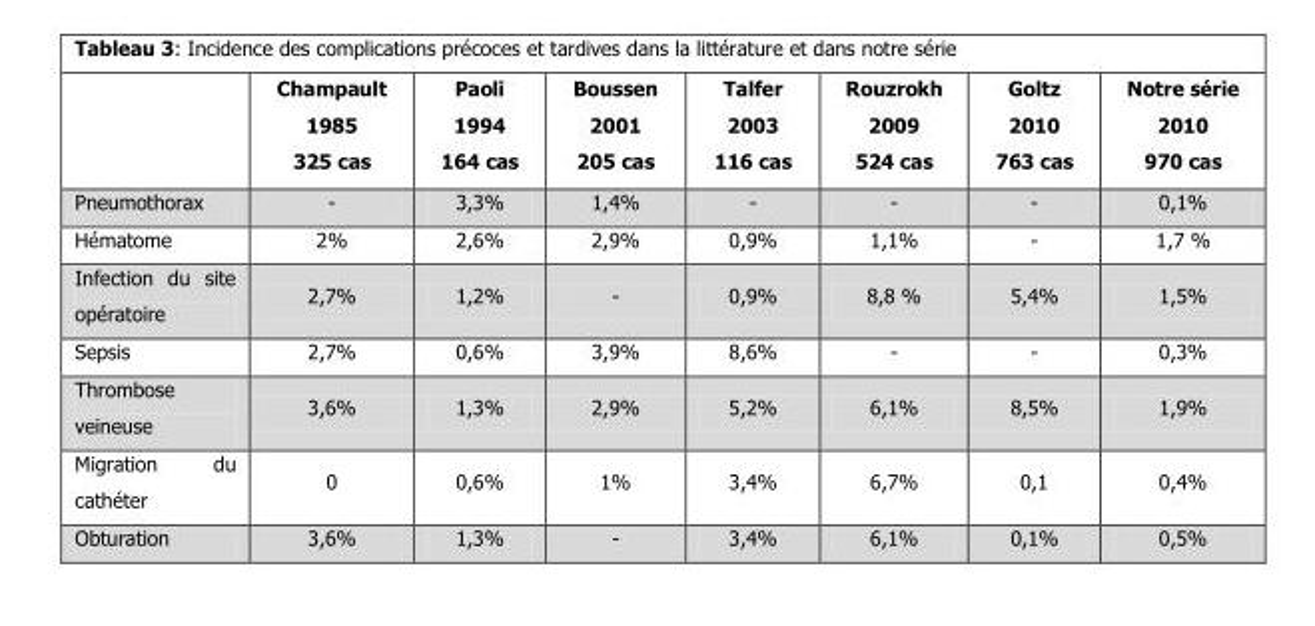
<table><thead><tr><td></td><td>Champault 1985 325 cas</td><td>Paoli 1994 164 cas</td><td>Boussen 2001 205 cas</td><td>Talfer 2003 116 cas</td><td>Rouzrokh 2009 524 cas</td><td>Goltz 2010 763 cas</td><td>Notre série 2010 970 cas</td></tr></thead><tbody><tr><td>Pneumothorax</td><td>-</td><td>3,3%</td><td>1,4%</td><td>-</td><td>-</td><td>-</td><td>0,1%</td></tr><tr><td>Hématome</td><td>2%</td><td>2,6%</td><td>2,9%</td><td>0,9%</td><td>1,1%</td><td>-</td><td>1,7 %</td></tr><tr><td>Infection du site opératoire</td><td>2,7%</td><td>1,2%</td><td>-</td><td>0,9%</td><td>8,8 %</td><td>5,4%</td><td>1,5%</td></tr><tr><td>Sepsis</td><td>2,7%</td><td>0,6%</td><td>3,9%</td><td>8,6%</td><td>-</td><td>-</td><td>0,3%</td></tr><tr><td>Thrombose veineuse</td><td>3,6%</td><td>1,3%</td><td>2,9%</td><td>5,2%</td><td>6,1%</td><td>8,5%</td><td>1,9%</td></tr><tr><td>Migration du cathéter</td><td>0</td><td>0,6%</td><td>1%</td><td>3,4%</td><td>6,7%</td><td>0,1</td><td>0,4%</td></tr><tr><td>Obturation</td><td>3,6%</td><td>1,3%</td><td>-</td><td>3,4%</td><td>6,1%</td><td>0,1%</td><td>0,5%</td></tr></tbody></table>